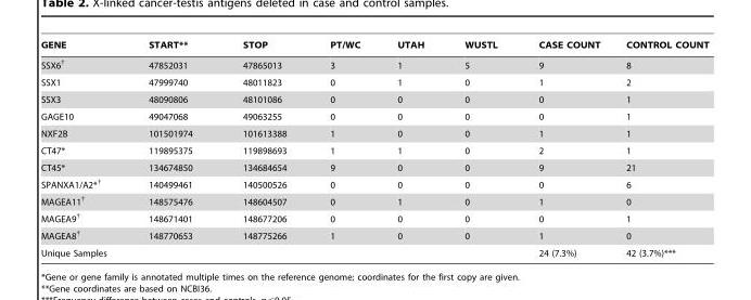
<table><thead><tr><td>GENE</td><td>START**</td><td>STOP</td><td>PT/WC</td><td>UTAH</td><td>WUSTL</td><td>CASE COUNT</td><td>CONTROL COUNT</td></tr></thead><tbody><tr><td>SSX6†</td><td>47852031</td><td>47865013</td><td>3</td><td>1</td><td>5</td><td>9</td><td>8</td></tr><tr><td>SSX1</td><td>47999740</td><td>48011823</td><td>0</td><td>1</td><td>0</td><td>1</td><td>2</td></tr><tr><td>SSX3</td><td>48090806</td><td>48101086</td><td>0</td><td>0</td><td>0</td><td>0</td><td>1</td></tr><tr><td>GAGE10</td><td>49047068</td><td>49063255</td><td>0</td><td>0</td><td>0</td><td>0</td><td>1</td></tr><tr><td>NXF2B</td><td>101501974</td><td>101613388</td><td>1</td><td>0</td><td>0</td><td>1</td><td>1</td></tr><tr><td>CT47*</td><td>119895375</td><td>119898693</td><td>1</td><td>1</td><td>0</td><td>2</td><td>1</td></tr><tr><td>CT45*</td><td>134674850</td><td>134684654</td><td>9</td><td>0</td><td>0</td><td>9</td><td>21</td></tr><tr><td>SPANXA1/A2*†</td><td>140499461</td><td>140500526</td><td>0</td><td>0</td><td>0</td><td>0</td><td>6</td></tr><tr><td>MAGEA11†</td><td>148575476</td><td>148604507</td><td>0</td><td>1</td><td>0</td><td>1</td><td>0</td></tr><tr><td>MAGEA9†</td><td>148671401</td><td>148677206</td><td>0</td><td>0</td><td>0</td><td>0</td><td>1</td></tr><tr><td>MAGEA8†</td><td>148770653</td><td>148775266</td><td>1</td><td>0</td><td>0</td><td>1</td><td>0</td></tr><tr><td>Unique Samples</td><td></td><td></td><td></td><td></td><td></td><td>24 (7.3%)</td><td>42 (3.7%)***</td></tr></tbody></table>